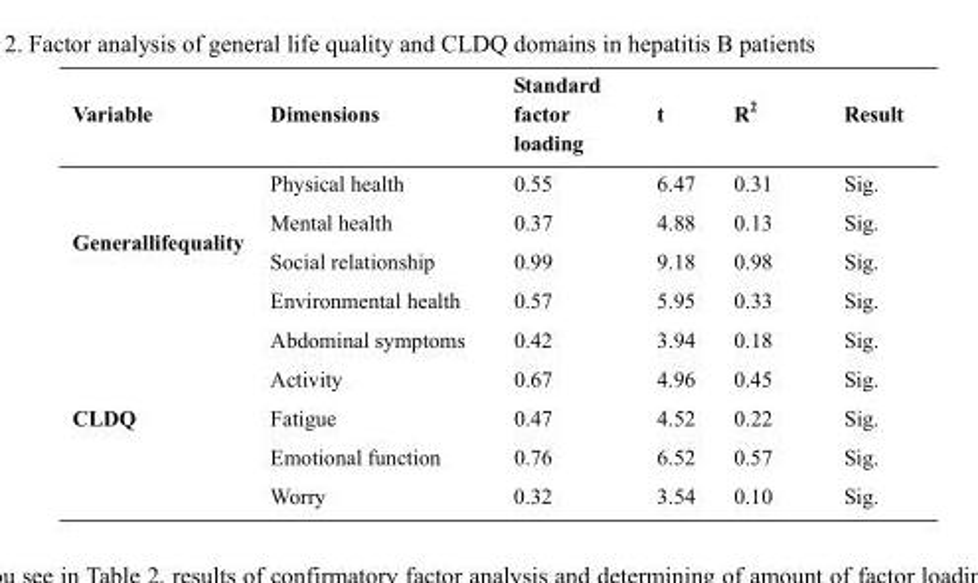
<table><thead><tr><td>Variable</td><td>Dimensions</td><td>Standard factor loading</td><td>t</td><td>R<sup>2</sup></td><td>Result</td></tr></thead><tbody><tr><td rowspan="4">Generallifequality</td><td>Physical health</td><td>0.55</td><td>6.47</td><td>0.31</td><td>Sig.</td></tr><tr><td>Mental health</td><td>0.37</td><td>4.88</td><td>0.13</td><td>Sig.</td></tr><tr><td>Social relationship</td><td>0.99</td><td>9.18</td><td>0.98</td><td>Sig.</td></tr><tr><td>Environmental health</td><td>0.57</td><td>5.95</td><td>0.33</td><td>Sig.</td></tr><tr><td rowspan="5">CLDQ</td><td>Abdominal symptoms</td><td>0.42</td><td>3.94</td><td>0.18</td><td>Sig.</td></tr><tr><td>Activity</td><td>0.67</td><td>4.96</td><td>0.45</td><td>Sig.</td></tr><tr><td>Fatigue</td><td>0.47</td><td>4.52</td><td>0.22</td><td>Sig.</td></tr><tr><td>Emotional function</td><td>0.76</td><td>6.52</td><td>0.57</td><td>Sig.</td></tr><tr><td>Worry</td><td>0.32</td><td>3.54</td><td>0.10</td><td>Sig.</td></tr></tbody></table>